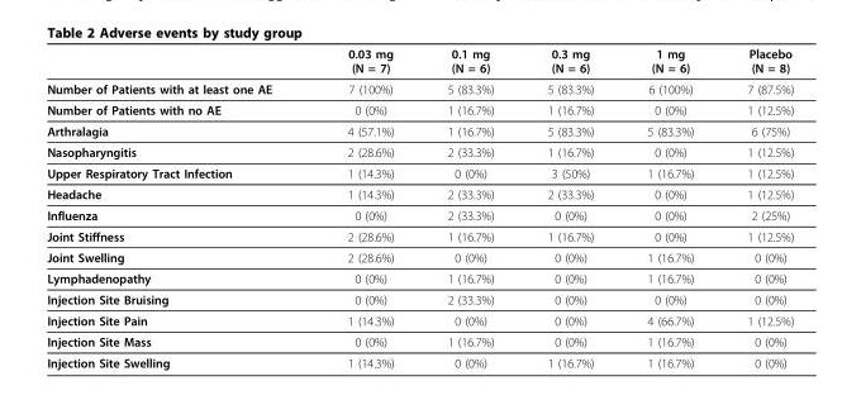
<table><thead><tr><td></td><td>0.03 mg (N = 7)</td><td>0.1 mg (N = 6)</td><td>0.3 mg (N = 6)</td><td>1 mg (N = 6)</td><td>Placebo (N = 8)</td></tr></thead><tbody><tr><td>Number of Patients with at least one AE</td><td>7 (100%)</td><td>5 (83.3%)</td><td>5 (83.3%)</td><td>6 (100%)</td><td>7 (87.5%)</td></tr><tr><td>Number of Patients with no AE</td><td>0 (0%)</td><td>1 (16.7%)</td><td>1 (16.7%)</td><td>0 (0%)</td><td>1 (12.5%)</td></tr><tr><td>Arthralagia</td><td>4 (57.1%)</td><td>1 (16.7%)</td><td>5 (83.3%)</td><td>5 (83.3%)</td><td>6 (75%)</td></tr><tr><td>Nasopharyngitis</td><td>2 (28.6%)</td><td>2 (33.3%)</td><td>1 (16.7%)</td><td>0 (0%)</td><td>1 (12.5%)</td></tr><tr><td>Upper Respiratory Tract Infection</td><td>1 (14.3%)</td><td>0 (0%)</td><td>3 (50%)</td><td>1 (16.7%)</td><td>1 (12.5%)</td></tr><tr><td>Headache</td><td>1 (14.3%)</td><td>2 (33.3%)</td><td>2 (33.3%)</td><td>0 (0%)</td><td>1 (12.5%)</td></tr><tr><td>Influenza</td><td>0 (0%)</td><td>2 (33.3%)</td><td>0 (0%)</td><td>0 (0%)</td><td>2 (25%)</td></tr><tr><td>Joint Stiffness</td><td>2 (28.6%)</td><td>1 (16.7%)</td><td>1 (16.7%)</td><td>0 (0%)</td><td>1 (12.5%)</td></tr><tr><td>Joint Swelling</td><td>2 (28.6%)</td><td>0 (0%)</td><td>0 (0%)</td><td>1 (16.7%)</td><td>0 (0%)</td></tr><tr><td>Lymphadenopathy</td><td>0 (0%)</td><td>1 (16.7%)</td><td>0 (0%)</td><td>1 (16.7%)</td><td>0 (0%)</td></tr><tr><td>Injection Site Bruising</td><td>0 (0%)</td><td>2 (33.3%)</td><td>0 (0%)</td><td>0 (0%)</td><td>0 (0%)</td></tr><tr><td>Injection Site Pain</td><td>1 (14.3%)</td><td>0 (0%)</td><td>0 (0%)</td><td>4 (66.7%)</td><td>1 (12.5%)</td></tr><tr><td>Injection Site Mass</td><td>0 (0%)</td><td>1 (16.7%)</td><td>0 (0%)</td><td>1 (16.7%)</td><td>0 (0%)</td></tr><tr><td>Injection Site Swelling</td><td>1 (14.3%)</td><td>0 (0%)</td><td>1 (16.7%)</td><td>1 (16.7%)</td><td>0 (0%)</td></tr></tbody></table>